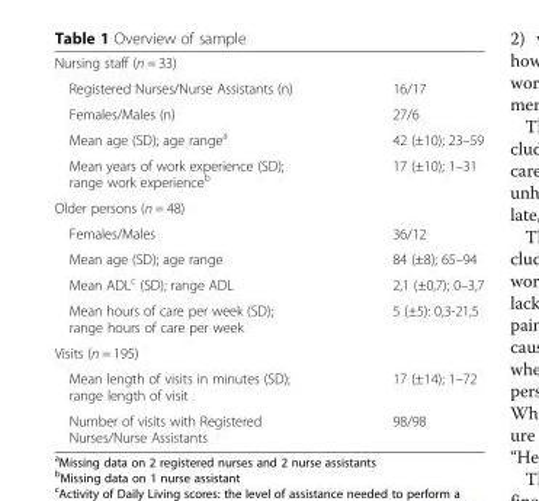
<table><tbody><tr><td colspan="2">Nursing staff (n = 33)</td></tr><tr><td>Registered Nurses/Nurse Assistants (n)</td><td>16/17</td></tr><tr><td>Females/Males (n)</td><td>27/6</td></tr><tr><td>Mean age (SD); age range<sup>a</sup></td><td>42 (±10); 23–59</td></tr><tr><td>Mean years of work experience (SD); range work experience<sup>b</sup></td><td>17 (±10); 1–31</td></tr><tr><td colspan="2">Older persons (n = 48)</td></tr><tr><td>Females/Males</td><td>36/12</td></tr><tr><td>Mean age (SD); age range</td><td>84 (±8); 65–94</td></tr><tr><td>Mean ADL<sup>c</sup> (SD); range ADL</td><td>2,1 (±0,7); 0–3,7</td></tr><tr><td>Mean hours of care per week (SD); range hours of care per week</td><td>5 (±5): 0,3-21,5</td></tr><tr><td colspan="2">Visits (n = 195)</td></tr><tr><td>Mean length of visits in minutes (SD); range length of visit</td><td>17 (±14); 1–72</td></tr><tr><td>Number of visits with Registered Nurses/Nurse Assistants</td><td>98/98</td></tr></tbody></table>